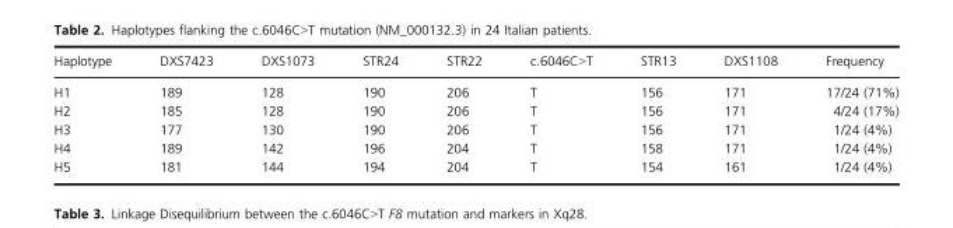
<table><thead><tr><td>Haplotype</td><td>DXS7423</td><td>DXS1073</td><td>STR24</td><td>STR22</td><td>c.6046C&gt;T</td><td>STR13</td><td>DXS1108</td><td>Frequency</td></tr></thead><tbody><tr><td>H1</td><td>189</td><td>128</td><td>190</td><td>206</td><td>T</td><td>156</td><td>171</td><td>17/24 (71%)</td></tr><tr><td>H2</td><td>185</td><td>128</td><td>190</td><td>206</td><td>T</td><td>156</td><td>171</td><td>4/24 (17%)</td></tr><tr><td>H3</td><td>177</td><td>130</td><td>190</td><td>206</td><td>T</td><td>156</td><td>171</td><td>1/24 (4%)</td></tr><tr><td>H4</td><td>189</td><td>142</td><td>196</td><td>204</td><td>T</td><td>158</td><td>171</td><td>1/24 (4%)</td></tr><tr><td>H5</td><td>181</td><td>144</td><td>194</td><td>204</td><td>T</td><td>154</td><td>161</td><td>1/24 (4%)</td></tr></tbody></table>